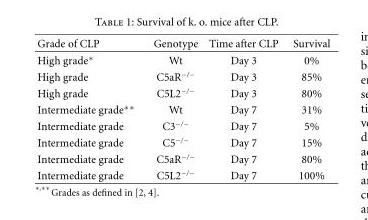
<table><thead><tr><td>Grade of CLP</td><td>Genotype</td><td>Time after CLP</td><td>Survival</td></tr></thead><tbody><tr><td>High grade∗</td><td>Wt</td><td>Day 3</td><td>0%</td></tr><tr><td>High grade</td><td>C5aR<sup>−/−</sup></td><td>Day 3</td><td>85%</td></tr><tr><td>High grade</td><td>C5L2<sup>−/−</sup></td><td>Day 3</td><td>80%</td></tr><tr><td>Intermediate grade∗∗</td><td>Wt</td><td>Day 7</td><td>31%</td></tr><tr><td>Intermediate grade</td><td>C3<sup>−/−</sup></td><td>Day 7</td><td>5%</td></tr><tr><td>Intermediate grade</td><td>C5<sup>−/−</sup></td><td>Day 7</td><td>15%</td></tr><tr><td>Intermediate grade</td><td>C5aR<sup>−/−</sup></td><td>Day 7</td><td>80%</td></tr><tr><td>Intermediate grade</td><td>C5L2<sup>−/−</sup></td><td>Day 7</td><td>100%</td></tr></tbody></table>